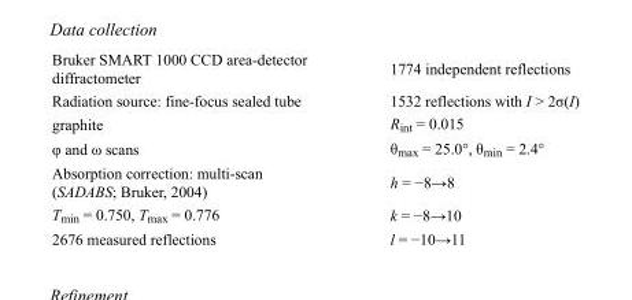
<table><tbody><tr><td>Bruker SMART 1000 CCD area-detector diffractometer</td><td>1774 independent reflections</td></tr><tr><td>Radiation source: fine-focus sealed tube</td><td>1532 reflections with I &gt; 2σ(I)</td></tr><tr><td>graphite</td><td>R<sub>int</sub> = 0.015</td></tr><tr><td>φ and ω scans</td><td>θ<sub>max</sub> = 25.0°, θ<sub>min</sub> = 2.4°</td></tr><tr><td>Absorption correction: multi-scan (SADABS; Bruker, 2004)</td><td>h = −8→8</td></tr><tr><td>T<sub>min</sub> = 0.750, T<sub>max</sub> = 0.776</td><td>k = −8→10</td></tr><tr><td>2676 measured reflections</td><td>l = −10→11</td></tr></tbody></table>